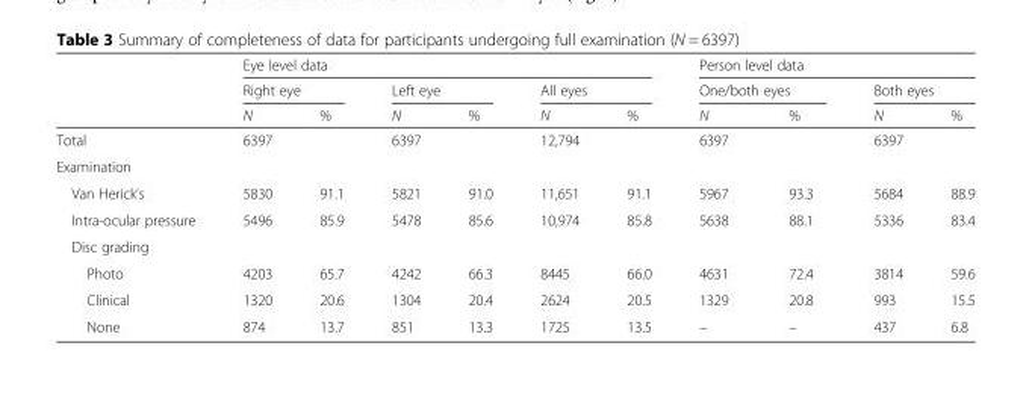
<table><thead><tr><td rowspan="3"></td><td colspan="6">Eye level data</td><td colspan="4">Person level data</td></tr><tr><td colspan="2">Right eye</td><td colspan="2">Left eye</td><td colspan="2">All eyes</td><td colspan="2">One/both eyes</td><td colspan="2">Both eyes</td></tr><tr><td>N</td><td>%</td><td>N</td><td>%</td><td>N</td><td>%</td><td>N</td><td>%</td><td>N</td><td>%</td></tr></thead><tbody><tr><td>Total</td><td>6397</td><td></td><td>6397</td><td></td><td>12,794</td><td></td><td>6397</td><td></td><td>6397</td><td></td></tr><tr><td colspan="11">Examination</td></tr><tr><td>Van Herick’s</td><td>5830</td><td>91.1</td><td>5821</td><td>91.0</td><td>11,651</td><td>91.1</td><td>5967</td><td>93.3</td><td>5684</td><td>88.9</td></tr><tr><td>Intra-ocular pressure</td><td>5496</td><td>85.9</td><td>5478</td><td>85.6</td><td>10,974</td><td>85.8</td><td>5638</td><td>88.1</td><td>5336</td><td>83.4</td></tr><tr><td colspan="11">Disc grading</td></tr><tr><td>Photo</td><td>4203</td><td>65.7</td><td>4242</td><td>66.3</td><td>8445</td><td>66.0</td><td>4631</td><td>72.4</td><td>3814</td><td>59.6</td></tr><tr><td>Clinical</td><td>1320</td><td>20.6</td><td>1304</td><td>20.4</td><td>2624</td><td>20.5</td><td>1329</td><td>20.8</td><td>993</td><td>15.5</td></tr><tr><td>None</td><td>874</td><td>13.7</td><td>851</td><td>13.3</td><td>1725</td><td>13.5</td><td>–</td><td>–</td><td>437</td><td>6.8</td></tr></tbody></table>